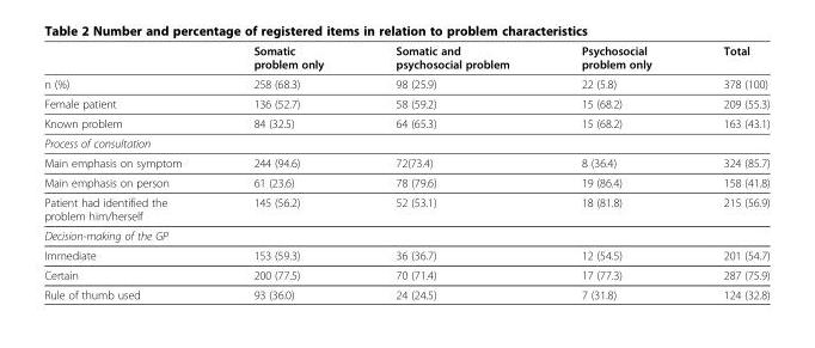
<table><thead><tr><td></td><td>Somatic problem only</td><td>Somatic and psychosocial problem</td><td>Psychosocial problem only</td><td>Total</td></tr></thead><tbody><tr><td>n (%)</td><td>258 (68.3)</td><td>98 (25.9)</td><td>22 (5.8)</td><td>378 (100)</td></tr><tr><td>Female patient</td><td>136 (52.7)</td><td>58 (59.2)</td><td>15 (68.2)</td><td>209 (55.3)</td></tr><tr><td>Known problem</td><td>84 (32.5)</td><td>64 (65.3)</td><td>15 (68.2)</td><td>163 (43.1)</td></tr><tr><td colspan="5">Process of consultation</td></tr><tr><td>Main emphasis on symptom</td><td>244 (94.6)</td><td>72(73.4)</td><td>8 (36.4)</td><td>324 (85.7)</td></tr><tr><td>Main emphasis on person</td><td>61 (23.6)</td><td>78 (79.6)</td><td>19 (86.4)</td><td>158 (41.8)</td></tr><tr><td>Patient had identified the problem him/herself</td><td>145 (56.2)</td><td>52 (53.1)</td><td>18 (81.8)</td><td>215 (56.9)</td></tr><tr><td colspan="5">Decision-making of the GP</td></tr><tr><td>Immediate</td><td>153 (59.3)</td><td>36 (36.7)</td><td>12 (54.5)</td><td>201 (54.7)</td></tr><tr><td>Certain</td><td>200 (77.5)</td><td>70 (71.4)</td><td>17 (77.3)</td><td>287 (75.9)</td></tr><tr><td>Rule of thumb used</td><td>93 (36.0)</td><td>24 (24.5)</td><td>7 (31.8)</td><td>124 (32.8)</td></tr></tbody></table>